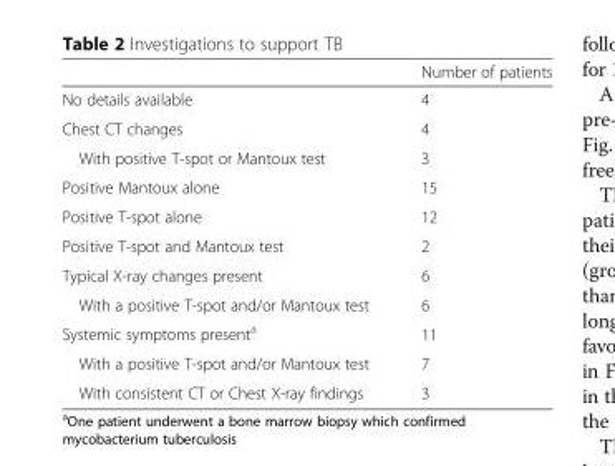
<table><thead><tr><td></td><td>Number of patients</td></tr></thead><tbody><tr><td>No details available</td><td>4</td></tr><tr><td>Chest CT changes</td><td>4</td></tr><tr><td>With positive T-spot or Mantoux test</td><td>3</td></tr><tr><td>Positive Mantoux alone</td><td>15</td></tr><tr><td>Positive T-spot alone</td><td>12</td></tr><tr><td>Positive T-spot and Mantoux test</td><td>2</td></tr><tr><td>Typical X-ray changes present</td><td>6</td></tr><tr><td>With a positive T-spot and/or Mantoux test</td><td>6</td></tr><tr><td>Systemic symptoms present<sup>a</sup></td><td>11</td></tr><tr><td>With a positive T-spot and/or Mantoux test</td><td>7</td></tr><tr><td>With consistent CT or Chest X-ray findings</td><td>3</td></tr></tbody></table>